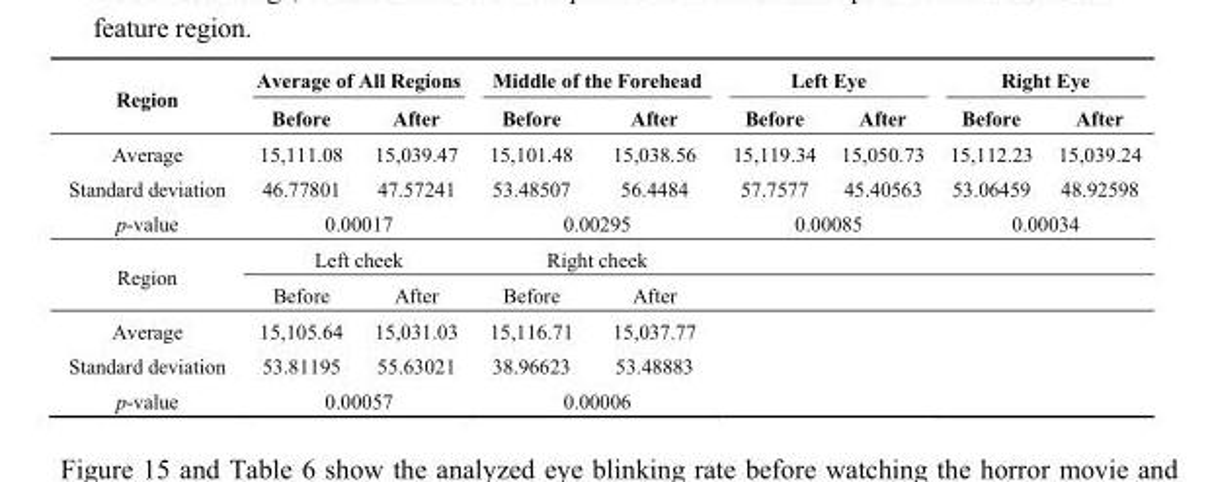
<table><thead><tr><td rowspan="2">Region</td><td colspan="2">Average of All Regions</td><td colspan="2">Middle of the Forehead</td><td colspan="2">Left Eye</td><td colspan="2">Right Eye</td></tr><tr><td>Before</td><td>After</td><td>Before</td><td>After</td><td>Before</td><td>After</td><td>Before</td><td>After</td></tr></thead><tbody><tr><td>Average</td><td>15,111.08</td><td>15,039.47</td><td>15,101.48</td><td>15,038.56</td><td>15,119.34</td><td>15,050.73</td><td>15,112.23</td><td>15,039.24</td></tr><tr><td>Standard deviation</td><td>46.77801</td><td>47.57241</td><td>53.48507</td><td>56.4484</td><td>57.7577</td><td>45.40563</td><td>53.06459</td><td>48.92598</td></tr><tr><td>p-value</td><td colspan="2">0.00017</td><td colspan="2">0.00295</td><td colspan="2">0.00085</td><td colspan="2">0.00034</td></tr><tr><td rowspan="2">Region</td><td colspan="2">Left cheek</td><td colspan="2">Right cheek</td><td></td><td></td><td></td><td></td></tr><tr><td>Before</td><td>After</td><td>Before</td><td>After</td><td></td><td></td><td></td><td></td></tr><tr><td>Average</td><td>15,105.64</td><td>15,031.03</td><td>15,116.71</td><td>15,037.77</td><td></td><td></td><td></td><td></td></tr><tr><td>Standard deviation</td><td>53.81195</td><td>55.63021</td><td>38.96623</td><td>53.48883</td><td></td><td></td><td></td><td></td></tr><tr><td>p-value</td><td colspan="2">0.00057</td><td colspan="2">0.00006</td><td colspan="2"></td><td colspan="2"></td></tr></tbody></table>